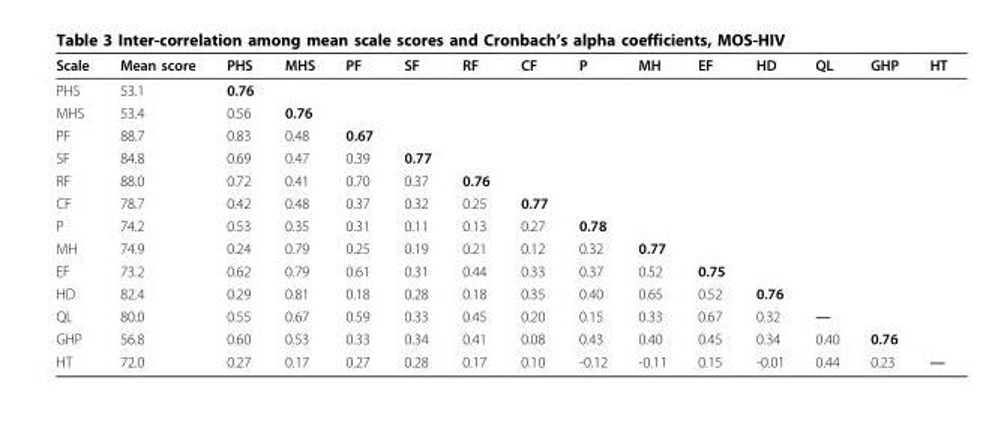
<table><thead><tr><td>Scale</td><td>Mean score</td><td>PHS</td><td>MHS</td><td>PF</td><td>SF</td><td>RF</td><td>CF</td><td>P</td><td>MH</td><td>EF</td><td>HD</td><td>QL</td><td>GHP</td><td>HT</td></tr></thead><tbody><tr><td>PHS</td><td>53.1</td><td>0.76</td><td></td><td></td><td></td><td></td><td></td><td></td><td></td><td></td><td></td><td></td><td></td><td></td></tr><tr><td>MHS</td><td>53.4</td><td>0.56</td><td>0.76</td><td></td><td></td><td></td><td></td><td></td><td></td><td></td><td></td><td></td><td></td><td></td></tr><tr><td>PF</td><td>88.7</td><td>0.83</td><td>0.48</td><td>0.67</td><td></td><td></td><td></td><td></td><td></td><td></td><td></td><td></td><td></td><td></td></tr><tr><td>SF</td><td>84.8</td><td>0.69</td><td>0.47</td><td>0.39</td><td>0.77</td><td></td><td></td><td></td><td></td><td></td><td></td><td></td><td></td><td></td></tr><tr><td>RF</td><td>88.0</td><td>0.72</td><td>0.41</td><td>0.70</td><td>0.37</td><td>0.76</td><td></td><td></td><td></td><td></td><td></td><td></td><td></td><td></td></tr><tr><td>CF</td><td>78.7</td><td>0.42</td><td>0.48</td><td>0.37</td><td>0.32</td><td>0.25</td><td>0.77</td><td></td><td></td><td></td><td></td><td></td><td></td><td></td></tr><tr><td>P</td><td>74.2</td><td>0.53</td><td>0.35</td><td>0.31</td><td>0.11</td><td>0.13</td><td>0.27</td><td>0.78</td><td></td><td></td><td></td><td></td><td></td><td></td></tr><tr><td>MH</td><td>74.9</td><td>0.24</td><td>0.79</td><td>0.25</td><td>0.19</td><td>0.21</td><td>0.12</td><td>0.32</td><td>0.77</td><td></td><td></td><td></td><td></td><td></td></tr><tr><td>EF</td><td>73.2</td><td>0.62</td><td>0.79</td><td>0.61</td><td>0.31</td><td>0.44</td><td>0.33</td><td>0.37</td><td>0.52</td><td>0.75</td><td></td><td></td><td></td><td></td></tr><tr><td>HD</td><td>82.4</td><td>0.29</td><td>0.81</td><td>0.18</td><td>0.28</td><td>0.18</td><td>0.35</td><td>0.40</td><td>0.65</td><td>0.52</td><td>0.76</td><td></td><td></td><td></td></tr><tr><td>QL</td><td>80.0</td><td>0.55</td><td>0.67</td><td>0.59</td><td>0.33</td><td>0.45</td><td>0.20</td><td>0.15</td><td>0.33</td><td>0.67</td><td>0.32</td><td>—</td><td></td><td></td></tr><tr><td>GHP</td><td>56.8</td><td>0.60</td><td>0.53</td><td>0.33</td><td>0.34</td><td>0.41</td><td>0.08</td><td>0.43</td><td>0.40</td><td>0.45</td><td>0.34</td><td>0.40</td><td>0.76</td><td></td></tr><tr><td>HT</td><td>72.0</td><td>0.27</td><td>0.17</td><td>0.27</td><td>0.28</td><td>0.17</td><td>0.10</td><td>-0.12</td><td>-0.11</td><td>0.15</td><td>-0.01</td><td>0.44</td><td>0.23</td><td>—</td></tr></tbody></table>